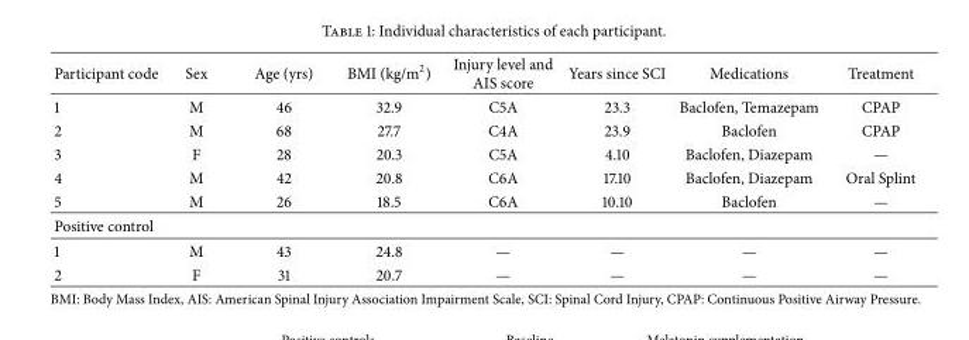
<table><thead><tr><td>Participant code</td><td>Sex</td><td>Age (yrs)</td><td>BMI (kg/m<sup>2</sup>)</td><td>Injury level and AIS score</td><td>Years since SCI</td><td>Medications</td><td>Treatment</td></tr></thead><tbody><tr><td>1</td><td>M</td><td>46</td><td>32.9</td><td>C5A</td><td>23.3</td><td>Baclofen, Temazepam</td><td>CPAP</td></tr><tr><td>2</td><td>M</td><td>68</td><td>27.7</td><td>C4A</td><td>23.9</td><td>Baclofen</td><td>CPAP</td></tr><tr><td>3</td><td>F</td><td>28</td><td>20.3</td><td>C5A</td><td>4.10</td><td>Baclofen, Diazepam</td><td>—</td></tr><tr><td>4</td><td>M</td><td>42</td><td>20.8</td><td>C6A</td><td>17.10</td><td>Baclofen, Diazepam</td><td>Oral Splint</td></tr><tr><td>5</td><td>M</td><td>26</td><td>18.5</td><td>C6A</td><td>10.10</td><td>Baclofen</td><td>—</td></tr><tr><td colspan="8">Positive control</td></tr><tr><td>1</td><td>M</td><td>43</td><td>24.8</td><td>—</td><td>—</td><td>—</td><td>—</td></tr><tr><td>2</td><td>F</td><td>31</td><td>20.7</td><td>—</td><td>—</td><td>—</td><td>—</td></tr></tbody></table>